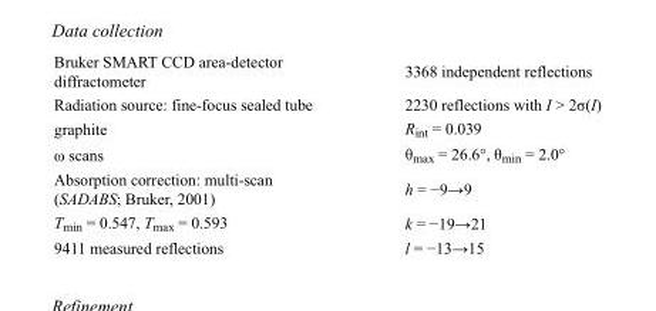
<table><tbody><tr><td>Bruker SMART CCD area-detector diffractometer</td><td>3368 independent reflections</td></tr><tr><td>Radiation source: fine-focus sealed tube</td><td>2230 reflections with I &gt; 2σ(I)</td></tr><tr><td>graphite</td><td>R<sub>int</sub> = 0.039</td></tr><tr><td>ω scans</td><td>θ<sub>max</sub> = 26.6°, θ<sub>min</sub> = 2.0°</td></tr><tr><td>Absorption correction: multi-scan (SADABS; Bruker, 2001)</td><td>h = −9→9</td></tr><tr><td>T<sub>min</sub> = 0.547, T<sub>max</sub> = 0.593</td><td>k = −19→21</td></tr><tr><td>9411 measured reflections</td><td>l = −13→15</td></tr></tbody></table>